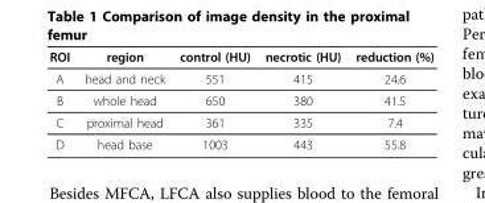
<table><thead><tr><td>ROI</td><td>region</td><td>control (HU)</td><td>necrotic (HU)</td><td>reduction (%)</td></tr></thead><tbody><tr><td>A</td><td>head and neck</td><td>551</td><td>415</td><td>24.6</td></tr><tr><td>B</td><td>whole head</td><td>650</td><td>380</td><td>41.5</td></tr><tr><td>C</td><td>proximal head</td><td>361</td><td>335</td><td>7.4</td></tr><tr><td>D</td><td>head base</td><td>1003</td><td>443</td><td>55.8</td></tr></tbody></table>